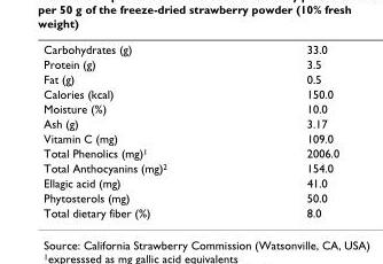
<table><tbody><tr><td>Carbohydrates (g)</td><td>33.0</td></tr><tr><td>Protein (g)</td><td>3.5</td></tr><tr><td>Fat (g)</td><td>0.5</td></tr><tr><td>Calories (kcal)</td><td>150.0</td></tr><tr><td>Moisture (%)</td><td>10.0</td></tr><tr><td>Ash (g)</td><td>3.17</td></tr><tr><td>Vitamin C (mg)</td><td>109.0</td></tr><tr><td>Total Phenolics (mg)<sup>1</sup></td><td>2006.0</td></tr><tr><td>Total Anthocyanins (mg)<sup>2</sup></td><td>154.0</td></tr><tr><td>Ellagic acid (mg)</td><td>41.0</td></tr><tr><td>Phytosterols (mg)</td><td>50.0</td></tr><tr><td>Total dietary fiber (%)</td><td>8.0</td></tr></tbody></table>